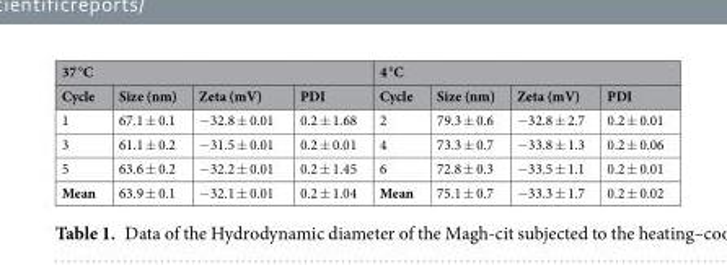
<table><thead><tr><td colspan="4">37 °C</td><td colspan="4">4 °C</td></tr><tr><td>Cycle</td><td>Size (nm)</td><td>Zeta (mV)</td><td>PDI</td><td>Cycle</td><td>Size (nm)</td><td>Zeta (mV)</td><td>PDI</td></tr></thead><tbody><tr><td>1</td><td>67.1 ± 0.1</td><td>−32.8 ± 0.01</td><td>0.2 ± 1.68</td><td>2</td><td>79.3 ± 0.6</td><td>−32.8 ± 2.7</td><td>0.2 ± 0.01</td></tr><tr><td>3</td><td>61.1 ± 0.2</td><td>−31.5 ± 0.01</td><td>0.2 ± 0.01</td><td>4</td><td>73.3 ± 0.7</td><td>−33.8 ± 1.3</td><td>0.2 ± 0.06</td></tr><tr><td>5</td><td>63.6 ± 0.2</td><td>−32.2 ± 0.01</td><td>0.2 ± 1.45</td><td>6</td><td>72.8 ± 0.3</td><td>−33.5 ± 1.1</td><td>0.2 ± 0.01</td></tr><tr><td>Mean</td><td>63.9 ± 0.1</td><td>−32.1 ± 0.01</td><td>0.2 ± 1.04</td><td>Mean</td><td>75.1 ± 0.7</td><td>−33.3 ± 1.7</td><td>0.2 ± 0.02</td></tr></tbody></table>